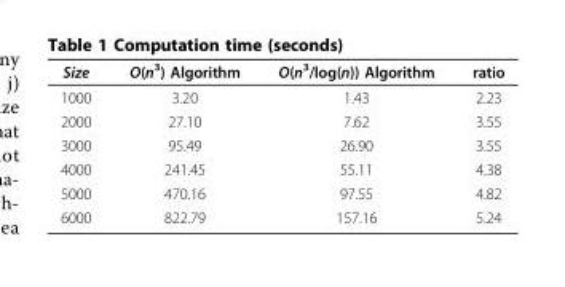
<table><thead><tr><td>Size</td><td>O(n<sup>3</sup>) Algorithm</td><td>O(n<sup>3</sup>/log(n)) Algorithm</td><td>ratio</td></tr></thead><tbody><tr><td>1000</td><td>3.20</td><td>1.43</td><td>2.23</td></tr><tr><td>2000</td><td>27.10</td><td>7.62</td><td>3.55</td></tr><tr><td>3000</td><td>95.49</td><td>26.90</td><td>3.55</td></tr><tr><td>4000</td><td>241.45</td><td>55.11</td><td>4.38</td></tr><tr><td>5000</td><td>470.16</td><td>97.55</td><td>4.82</td></tr><tr><td>6000</td><td>822.79</td><td>157.16</td><td>5.24</td></tr></tbody></table>